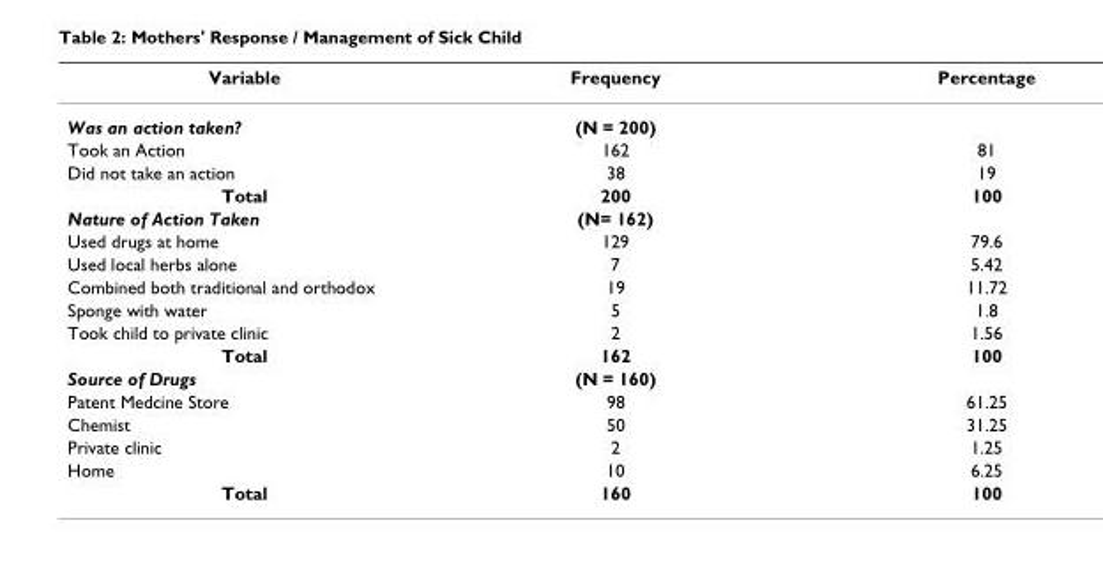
<table><thead><tr><td>Variable</td><td>Frequency</td><td>Percentage</td></tr></thead><tbody><tr><td>Was an action taken?</td><td>(N = 200)</td><td></td></tr><tr><td>Took an Action</td><td>162</td><td>81</td></tr><tr><td>Did not take an action</td><td>38</td><td>19</td></tr><tr><td>Total</td><td>200</td><td>100</td></tr><tr><td>Nature of Action Taken</td><td>(N= 162)</td><td></td></tr><tr><td>Used drugs at home</td><td>129</td><td>79.6</td></tr><tr><td>Used local herbs alone</td><td>7</td><td>5.42</td></tr><tr><td>Combined both traditional and orthodox</td><td>19</td><td>11.72</td></tr><tr><td>Sponge with water</td><td>5</td><td>1.8</td></tr><tr><td>Took child to private clinic</td><td>2</td><td>1.56</td></tr><tr><td>Total</td><td>162</td><td>100</td></tr><tr><td>Source of Drugs</td><td>(N = 160)</td><td></td></tr><tr><td>Patent Medcine Store</td><td>98</td><td>61.25</td></tr><tr><td>Chemist</td><td>50</td><td>31.25</td></tr><tr><td>Private clinic</td><td>2</td><td>1.25</td></tr><tr><td>Home</td><td>10</td><td>6.25</td></tr><tr><td>Total</td><td>160</td><td>100</td></tr></tbody></table>